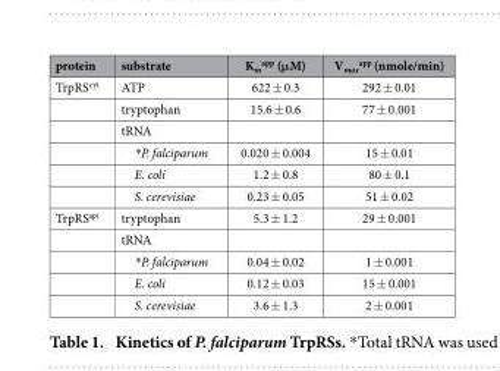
<table><thead><tr><td>protein</td><td>substrate</td><td>K<sub>m</sub> <sup>app</sup> (μM)</td><td>V<sub>max</sub> <sup>app</sup> (nmole/min)</td></tr></thead><tbody><tr><td rowspan="6">TrpRS<sup>cyt</sup></td><td>ATP</td><td>622 ± 0.3</td><td>292 ± 0.01</td></tr><tr><td>tryptophan</td><td>15.6 ± 0.6</td><td>77 ± 0.001</td></tr><tr><td>tRNA</td><td></td><td></td></tr><tr><td>*P. falciparum</td><td>0.020 ± 0.004</td><td>15 ± 0.01</td></tr><tr><td>E. coli</td><td>1.2 ± 0.8</td><td>80 ± 0.1</td></tr><tr><td>S. cerevisiae</td><td>0.23 ± 0.05</td><td>51 ± 0.02</td></tr><tr><td rowspan="5">TrpRS<sup>api</sup></td><td>tryptophan</td><td>5.3 ± 1.2</td><td>29 ± 0.001</td></tr><tr><td>tRNA</td><td></td><td></td></tr><tr><td>*P. falciparum</td><td>0.04 ± 0.02</td><td>1 ± 0.001</td></tr><tr><td>E. coli</td><td>0.12 ± 0.03</td><td>15 ± 0.001</td></tr><tr><td>S. cerevisiae</td><td>3.6 ± 1.3</td><td>2 ± 0.001</td></tr></tbody></table>